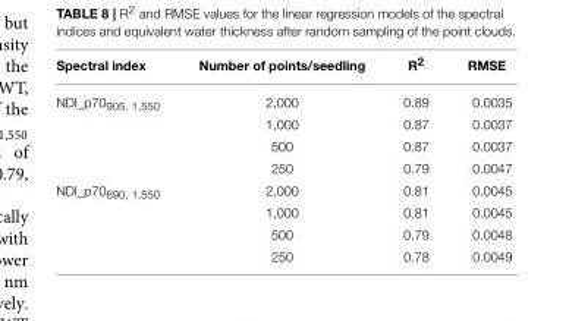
<table><thead><tr><td>Spectral index</td><td>Number of points/seedling</td><td>R<sup>2</sup></td><td>RMSE</td></tr></thead><tbody><tr><td rowspan="4">NDI_p70<sub>905. 1,550</sub></td><td>2,000</td><td>0.89</td><td>0.0035</td></tr><tr><td>1,000</td><td>0.87</td><td>0.0037</td></tr><tr><td>500</td><td>0.87</td><td>0.0037</td></tr><tr><td>250</td><td>0.79</td><td>0.0047</td></tr><tr><td rowspan="4">NDI_p70<sub>690, 1,550</sub></td><td>2,000</td><td>0.81</td><td>0.0045</td></tr><tr><td>1,000</td><td>0.81</td><td>0.0045</td></tr><tr><td>500</td><td>0.79</td><td>0.0048</td></tr><tr><td>250</td><td>0.78</td><td>0.0049</td></tr></tbody></table>